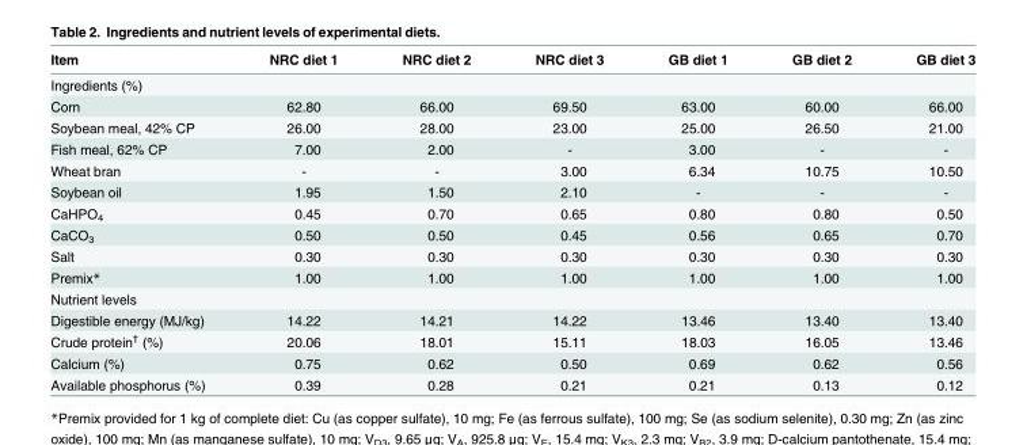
<table><thead><tr><td>Item</td><td>NRC diet 1</td><td>NRC diet 2</td><td>NRC diet 3</td><td>GB diet 1</td><td>GB diet 2</td><td>GB diet 3</td></tr></thead><tbody><tr><td colspan="7">Ingredients (%)</td></tr><tr><td>Corn</td><td>62.80</td><td>66.00</td><td>69.50</td><td>63.00</td><td>60.00</td><td>66.00</td></tr><tr><td>Soybean meal, 42% CP</td><td>26.00</td><td>28.00</td><td>23.00</td><td>25.00</td><td>26.50</td><td>21.00</td></tr><tr><td>Fish meal, 62% CP</td><td>7.00</td><td>2.00</td><td>-</td><td>3.00</td><td>-</td><td>-</td></tr><tr><td>Wheat bran</td><td>-</td><td>-</td><td>3.00</td><td>6.34</td><td>10.75</td><td>10.50</td></tr><tr><td>Soybean oil</td><td>1.95</td><td>1.50</td><td>2.10</td><td>-</td><td>-</td><td>-</td></tr><tr><td>CaHPO<sub>4</sub></td><td>0.45</td><td>0.70</td><td>0.65</td><td>0.80</td><td>0.80</td><td>0.50</td></tr><tr><td>CaCO<sub>3</sub></td><td>0.50</td><td>0.50</td><td>0.45</td><td>0.56</td><td>0.65</td><td>0.70</td></tr><tr><td>Salt</td><td>0.30</td><td>0.30</td><td>0.30</td><td>0.30</td><td>0.30</td><td>0.30</td></tr><tr><td>Premix*</td><td>1.00</td><td>1.00</td><td>1.00</td><td>1.00</td><td>1.00</td><td>1.00</td></tr><tr><td colspan="7">Nutrient levels</td></tr><tr><td>Digestible energy (MJ/kg)</td><td>14.22</td><td>14.21</td><td>14.22</td><td>13.46</td><td>13.40</td><td>13.40</td></tr><tr><td>Crude protein<sup>†</sup> (%)</td><td>20.06</td><td>18.01</td><td>15.11</td><td>18.03</td><td>16.05</td><td>13.46</td></tr><tr><td>Calcium (%)</td><td>0.75</td><td>0.62</td><td>0.50</td><td>0.69</td><td>0.62</td><td>0.56</td></tr><tr><td>Available phosphorus (%)</td><td>0.39</td><td>0.28</td><td>0.21</td><td>0.21</td><td>0.13</td><td>0.12</td></tr></tbody></table>